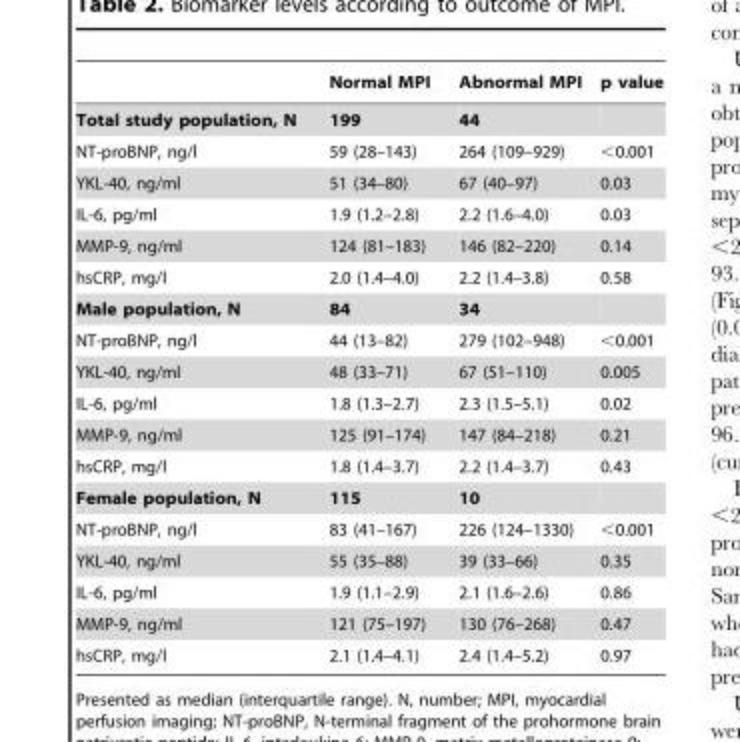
<table><thead><tr><td></td><td>Normal MPI</td><td>Abnormal MPI</td><td>p value</td></tr></thead><tbody><tr><td>Total study population, N</td><td>199</td><td>44</td><td></td></tr><tr><td>NT-proBNP, ng/l</td><td>59 (28–143)</td><td>264 (109–929)</td><td>&lt;0.001</td></tr><tr><td>YKL-40, ng/ml</td><td>51 (34–80)</td><td>67 (40–97)</td><td>0.03</td></tr><tr><td>IL-6, pg/ml</td><td>1.9 (1.2–2.8)</td><td>2.2 (1.6–4.0)</td><td>0.03</td></tr><tr><td>MMP-9, ng/ml</td><td>124 (81–183)</td><td>146 (82–220)</td><td>0.14</td></tr><tr><td>hsCRP, mg/l</td><td>2.0 (1.4–4.0)</td><td>2.2 (1.4–3.8)</td><td>0.58</td></tr><tr><td>Male population, N</td><td>84</td><td>34</td><td></td></tr><tr><td>NT-proBNP, ng/l</td><td>44 (13–82)</td><td>279 (102–948)</td><td>&lt;0.001</td></tr><tr><td>YKL-40, ng/ml</td><td>48 (33–71)</td><td>67 (51–110)</td><td>0.005</td></tr><tr><td>IL-6, pg/ml</td><td>1.8 (1.3–2.7)</td><td>2.3 (1.5–5.1)</td><td>0.02</td></tr><tr><td>MMP-9, ng/ml</td><td>125 (91–174)</td><td>147 (84–218)</td><td>0.21</td></tr><tr><td>hsCRP, mg/l</td><td>1.8 (1.4–3.7)</td><td>2.2 (1.4–3.7)</td><td>0.43</td></tr><tr><td>Female population, N</td><td>115</td><td>10</td><td></td></tr><tr><td>NT-proBNP, ng/l</td><td>83 (41–167)</td><td>226 (124–1330)</td><td>&lt;0.001</td></tr><tr><td>YKL-40, ng/ml</td><td>55 (35–88)</td><td>39 (33–66)</td><td>0.35</td></tr><tr><td>IL-6, pg/ml</td><td>1.9 (1.1–2.9)</td><td>2.1 (1.6–2.6)</td><td>0.86</td></tr><tr><td>MMP-9, ng/ml</td><td>121 (75–197)</td><td>130 (76–268)</td><td>0.47</td></tr><tr><td>hsCRP, mg/l</td><td>2.1 (1.4–4.1)</td><td>2.4 (1.4–5.2)</td><td>0.97</td></tr></tbody></table>